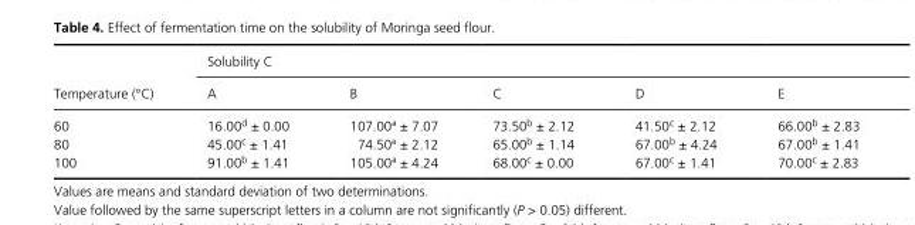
<table><thead><tr><td rowspan="2">Temperature (°C)</td><td colspan="5">Solubility C</td></tr><tr><td>A</td><td>B</td><td>C</td><td>D</td><td>E</td></tr></thead><tbody><tr><td>60</td><td>16.00d ± 0.00</td><td>107.00ª ± 7.07</td><td>73.50<sup>b</sup> ± 2.12</td><td>41.50<sup>c</sup> ± 2.12</td><td>66.00<sup>b</sup> ± 2.83</td></tr><tr><td>80</td><td>45.00<sup>c</sup> ± 1.41</td><td>74.50ª ± 2.12</td><td>65.00<sup>b</sup> ± 1.14</td><td>67.00<sup>b</sup> ± 4.24</td><td>67.00<sup>b</sup> ± 1.41</td></tr><tr><td>100</td><td>91.00<sup>b</sup> ± 1.41</td><td>105.00ª ± 4.24</td><td>68.00<sup>c</sup> ± 0.00</td><td>67.00<sup>c</sup> ± 1.41</td><td>70.00<sup>c</sup> ± 2.83</td></tr></tbody></table>